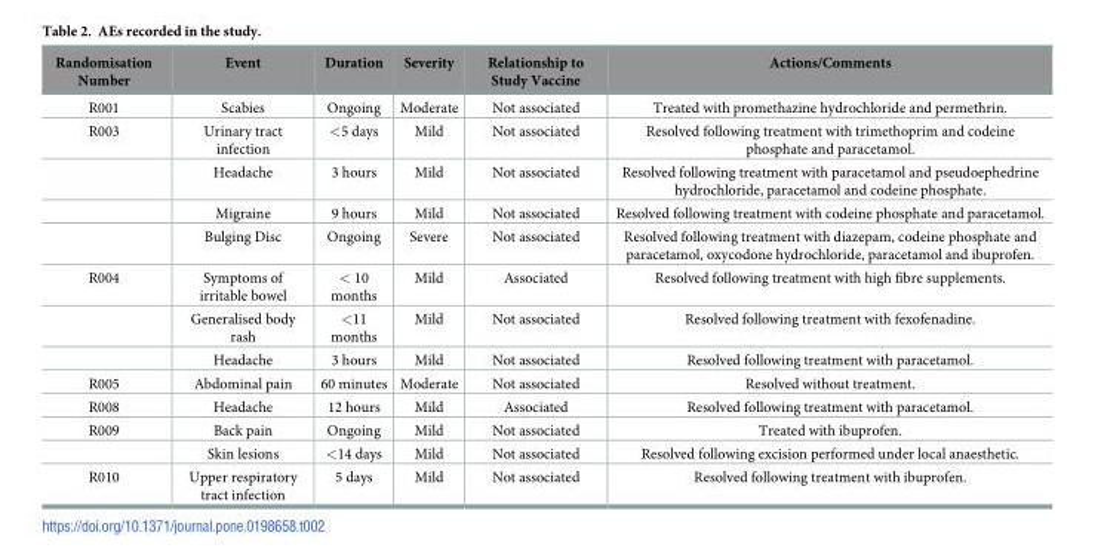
<table><thead><tr><td>Randomisation Number</td><td>Event</td><td>Duration</td><td>Severity</td><td>Relationship to Study Vaccine</td><td>Actions/Comments</td></tr></thead><tbody><tr><td>R001</td><td>Scabies</td><td>Ongoing</td><td>Moderate</td><td>Not associated</td><td>Treated with promethazine hydrochloride and permethrin.</td></tr><tr><td rowspan="4">R003</td><td>Urinary tract infection</td><td>&lt;5 days</td><td>Mild</td><td>Not associated</td><td>Resolved following treatment with trimethoprim and codeine phosphate and paracetamol.</td></tr><tr><td>Headache</td><td>3 hours</td><td>Mild</td><td>Not associated</td><td>Resolved following treatment with paracetamol and pseudoephedrine hydrochloride, paracetamol and codeine phosphate.</td></tr><tr><td>Migraine</td><td>9 hours</td><td>Mild</td><td>Not associated</td><td>Resolved following treatment with codeine phosphate and paracetamol.</td></tr><tr><td>Bulging Disc</td><td>Ongoing</td><td>Severe</td><td>Not associated</td><td>Resolved following treatment with diazepam, codeine phosphate and paracetamol, oxycodone hydrochloride, paracetamol and ibuprofen.</td></tr><tr><td rowspan="3">R004</td><td>Symptoms of irritable bowel</td><td>&lt; 10 months</td><td>Mild</td><td>Associated</td><td>Resolved following treatment with high fibre supplements.</td></tr><tr><td>Generalised body rash</td><td>&lt;11 months</td><td>Mild</td><td>Not associated</td><td>Resolved following treatment with fexofenadine.</td></tr><tr><td>Headache</td><td>3 hours</td><td>Mild</td><td>Not associated</td><td>Resolved following treatment with paracetamol.</td></tr><tr><td>R005</td><td>Abdominal pain</td><td>60 minutes</td><td>Moderate</td><td>Not associated</td><td>Resolved without treatment.</td></tr><tr><td>R008</td><td>Headache</td><td>12 hours</td><td>Mild</td><td>Associated</td><td>Resolved following treatment with paracetamol.</td></tr><tr><td rowspan="2">R009</td><td>Back pain</td><td>Ongoing</td><td>Mild</td><td>Not associated</td><td>Treated with ibuprofen.</td></tr><tr><td>Skin lesions</td><td>&lt;14 days</td><td>Mild</td><td>Not associated</td><td>Resolved following excision performed under local anaesthetic.</td></tr><tr><td>R010</td><td>Upper respiratory tract infection</td><td>5 days</td><td>Mild</td><td>Not associated</td><td>Resolved following treatment with ibuprofen.</td></tr></tbody></table>